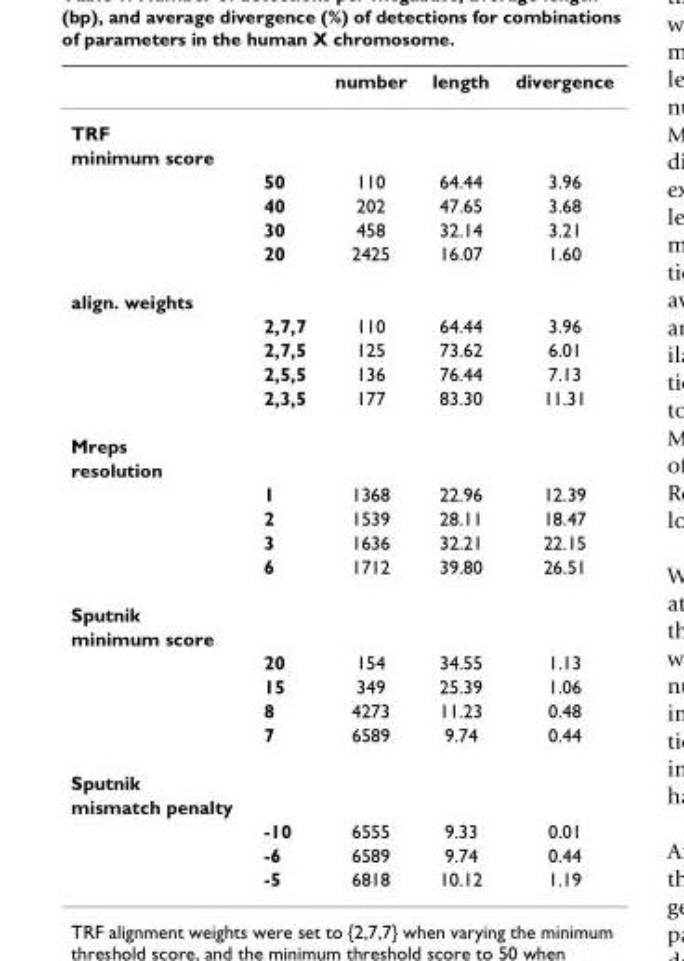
<table><thead><tr><td></td><td></td><td>number</td><td>length</td><td>divergence</td></tr></thead><tbody><tr><td colspan="5">TRF</td></tr><tr><td colspan="5">minimum score</td></tr><tr><td></td><td>50</td><td>110</td><td>64.44</td><td>3.96</td></tr><tr><td></td><td>40</td><td>202</td><td>47.65</td><td>3.68</td></tr><tr><td></td><td>30</td><td>458</td><td>32.14</td><td>3.21</td></tr><tr><td></td><td>20</td><td>2425</td><td>16.07</td><td>1.60</td></tr><tr><td colspan="5">align. weights</td></tr><tr><td></td><td>2,7,7</td><td>110</td><td>64.44</td><td>3.96</td></tr><tr><td></td><td>2,7,5</td><td>125</td><td>73.62</td><td>6.01</td></tr><tr><td></td><td>2,5,5</td><td>136</td><td>76.44</td><td>7.13</td></tr><tr><td></td><td>2,3,5</td><td>177</td><td>83.30</td><td>11.31</td></tr><tr><td colspan="5">Mreps</td></tr><tr><td colspan="5">resolution</td></tr><tr><td></td><td>1</td><td>1368</td><td>22.96</td><td>12.39</td></tr><tr><td></td><td>2</td><td>1539</td><td>28.11</td><td>18.47</td></tr><tr><td></td><td>3</td><td>1636</td><td>32.21</td><td>22.15</td></tr><tr><td></td><td>6</td><td>1712</td><td>39.80</td><td>26.51</td></tr><tr><td colspan="5">Sputnik</td></tr><tr><td colspan="5">minimum score</td></tr><tr><td></td><td>20</td><td>154</td><td>34.55</td><td>1.13</td></tr><tr><td></td><td>15</td><td>349</td><td>25.39</td><td>1.06</td></tr><tr><td></td><td>8</td><td>4273</td><td>11.23</td><td>0.48</td></tr><tr><td></td><td>7</td><td>6589</td><td>9.74</td><td>0.44</td></tr><tr><td colspan="5">Sputnik</td></tr><tr><td colspan="5">mismatch penalty</td></tr><tr><td></td><td>-10</td><td>6555</td><td>9.33</td><td>0.01</td></tr><tr><td></td><td>-6</td><td>6589</td><td>9.74</td><td>0.44</td></tr><tr><td></td><td>-5</td><td>6818</td><td>10.12</td><td>1.19</td></tr></tbody></table>